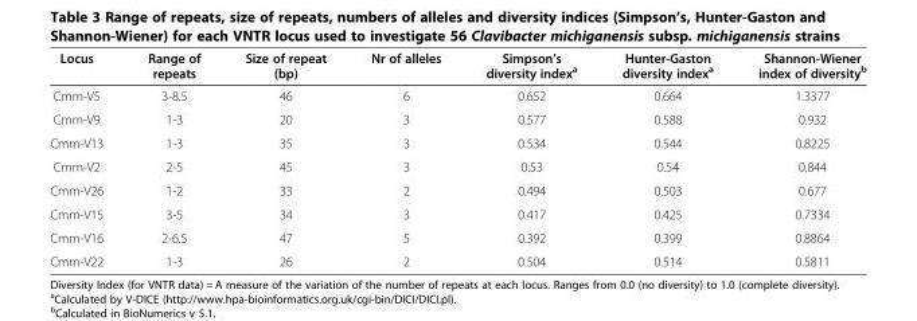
<table><thead><tr><td>Locus</td><td>Range of repeats</td><td>Size of repeat (bp)</td><td>Nr of alleles</td><td>Simpson’s diversity index<sup>a</sup></td><td>Hunter-Gaston diversity index<sup>a</sup></td><td>Shannon-Wiener index of diversity<sup>b</sup></td></tr></thead><tbody><tr><td>Cmm-V5</td><td>3-8.5</td><td>46</td><td>6</td><td>0.652</td><td>0.664</td><td>1.3377</td></tr><tr><td>Cmm-V9</td><td>1-3</td><td>20</td><td>3</td><td>0.577</td><td>0.588</td><td>0.932</td></tr><tr><td>Cmm-V13</td><td>1-3</td><td>35</td><td>3</td><td>0.534</td><td>0.544</td><td>0.8225</td></tr><tr><td>Cmm-V2</td><td>2-5</td><td>45</td><td>3</td><td>0.53</td><td>0.54</td><td>0.844</td></tr><tr><td>Cmm-V26</td><td>1-2</td><td>33</td><td>2</td><td>0.494</td><td>0.503</td><td>0.677</td></tr><tr><td>Cmm-V15</td><td>3-5</td><td>34</td><td>3</td><td>0.417</td><td>0.425</td><td>0.7334</td></tr><tr><td>Cmm-V16</td><td>2-6.5</td><td>47</td><td>5</td><td>0.392</td><td>0.399</td><td>0.8864</td></tr><tr><td>Cmm-V22</td><td>1-3</td><td>26</td><td>2</td><td>0.504</td><td>0.514</td><td>0.5811</td></tr></tbody></table>